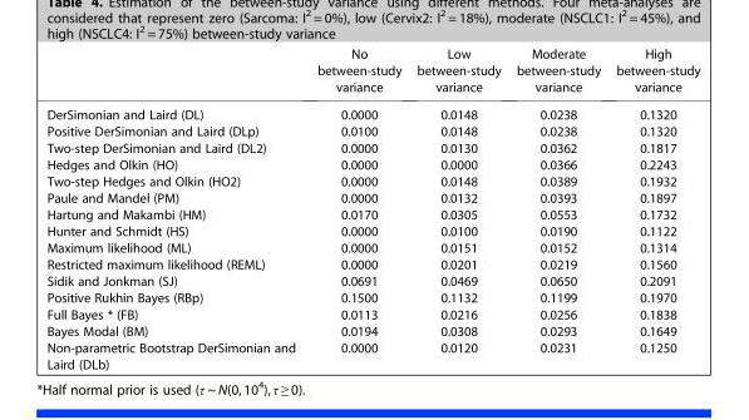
<table><thead><tr><td></td><td>No between-study variance</td><td>Low between-study variance</td><td>Moderate between-study variance</td><td>High between-study variance</td></tr></thead><tbody><tr><td>DerSimonian and Laird (DL)</td><td>0.0000</td><td>0.0148</td><td>0.0238</td><td>0.1320</td></tr><tr><td>Positive DerSimonian and Laird (DLp)</td><td>0.0100</td><td>0.0148</td><td>0.0238</td><td>0.1320</td></tr><tr><td>Two-step DerSimonian and Laird (DL2)</td><td>0.0000</td><td>0.0130</td><td>0.0362</td><td>0.1817</td></tr><tr><td>Hedges and Olkin (HO)</td><td>0.0000</td><td>0.0000</td><td>0.0366</td><td>0.2243</td></tr><tr><td>Two-step Hedges and Olkin (HO2)</td><td>0.0000</td><td>0.0148</td><td>0.0389</td><td>0.1932</td></tr><tr><td>Paule and Mandel (PM)</td><td>0.0000</td><td>0.0132</td><td>0.0393</td><td>0.1897</td></tr><tr><td>Hartung and Makambi (HM)</td><td>0.0170</td><td>0.0305</td><td>0.0553</td><td>0.1732</td></tr><tr><td>Hunter and Schmidt (HS)</td><td>0.0000</td><td>0.0100</td><td>0.0190</td><td>0.1122</td></tr><tr><td>Maximum likelihood (ML)</td><td>0.0000</td><td>0.0151</td><td>0.0152</td><td>0.1314</td></tr><tr><td>Restricted maximum likelihood (REML)</td><td>0.0000</td><td>0.0201</td><td>0.0219</td><td>0.1560</td></tr><tr><td>Sidik and Jonkman (SJ)</td><td>0.0691</td><td>0.0469</td><td>0.0650</td><td>0.2091</td></tr><tr><td>Positive Rukhin Bayes (RBp)</td><td>0.1500</td><td>0.1132</td><td>0.1199</td><td>0.1970</td></tr><tr><td>Full Bayes * (FB)</td><td>0.0113</td><td>0.0216</td><td>0.0256</td><td>0.1838</td></tr><tr><td>Bayes Modal (BM)</td><td>0.0194</td><td>0.0308</td><td>0.0293</td><td>0.1649</td></tr><tr><td>Non-parametric Bootstrap DerSimonian and Laird (DLb)</td><td>0.0000</td><td>0.0120</td><td>0.0231</td><td>0.1250</td></tr></tbody></table>